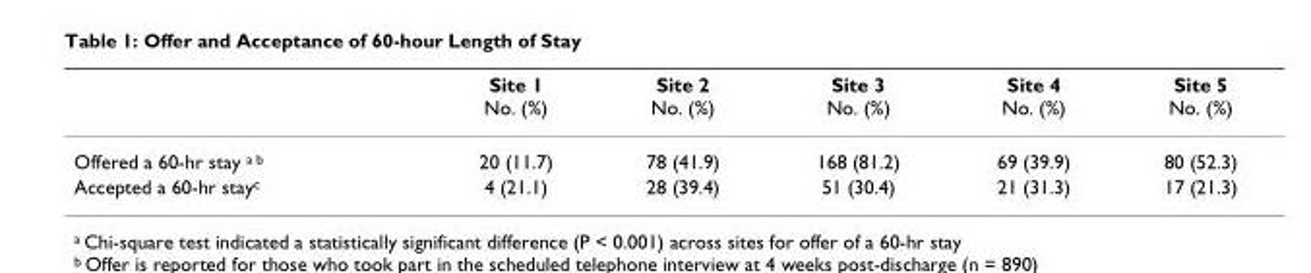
<table><thead><tr><td></td><td>Site 1 No. (%)</td><td>Site 2 No. (%)</td><td>Site 3 No. (%)</td><td>Site 4 No. (%)</td><td>Site 5 No. (%)</td></tr></thead><tbody><tr><td>Offered a 60-hr stay <sup>a b</sup></td><td>20 (11.7)</td><td>78 (41.9)</td><td>168 (81.2)</td><td>69 (39.9)</td><td>80 (52.3)</td></tr><tr><td>Accepted a 60-hr stay<sup>c</sup></td><td>4 (21.1)</td><td>28 (39.4)</td><td>51 (30.4)</td><td>21 (31.3)</td><td>17 (21.3)</td></tr></tbody></table>